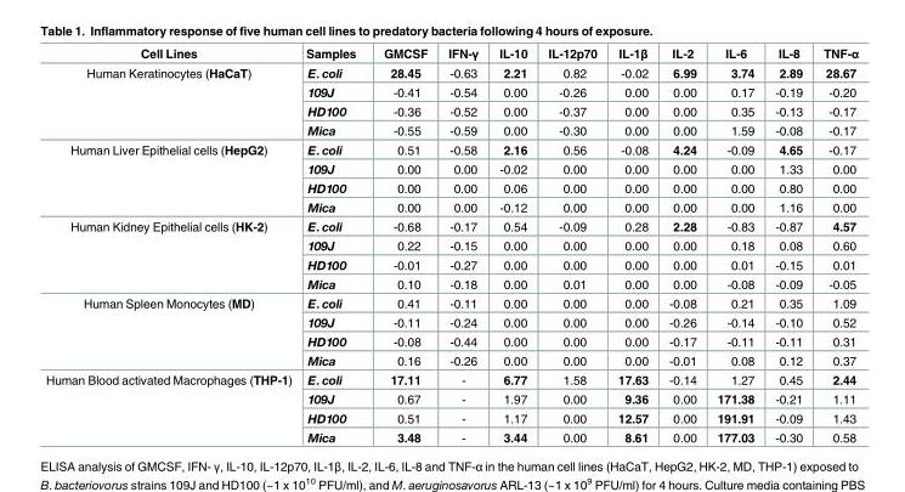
<table><thead><tr><td>Cell Lines</td><td>Samples</td><td>GMCSF</td><td>IFN-γ</td><td>IL-10</td><td>IL-12p70</td><td>IL-1β</td><td>IL-2</td><td>IL-6</td><td>IL-8</td><td>TNF-α</td></tr></thead><tbody><tr><td rowspan="4">Human Keratinocytes (HaCaT)</td><td>E. coli</td><td>28.45</td><td>-0.63</td><td>2.21</td><td>0.82</td><td>-0.02</td><td>6.99</td><td>3.74</td><td>2.89</td><td>28.67</td></tr><tr><td>109J</td><td>-0.41</td><td>-0.54</td><td>0.00</td><td>-0.26</td><td>0.00</td><td>0.00</td><td>0.17</td><td>-0.19</td><td>-0.20</td></tr><tr><td>HD100</td><td>-0.36</td><td>-0.52</td><td>0.00</td><td>-0.37</td><td>0.00</td><td>0.00</td><td>0.35</td><td>-0.13</td><td>-0.17</td></tr><tr><td>Mica</td><td>-0.55</td><td>-0.59</td><td>0.00</td><td>-0.30</td><td>0.00</td><td>0.00</td><td>1.59</td><td>-0.08</td><td>-0.17</td></tr><tr><td rowspan="4">Human Liver Epithelial cells (HepG2)</td><td>E. coli</td><td>0.51</td><td>-0.58</td><td>2.16</td><td>0.56</td><td>-0.08</td><td>4.24</td><td>-0.09</td><td>4.65</td><td>-0.17</td></tr><tr><td>109J</td><td>0.00</td><td>0.00</td><td>-0.02</td><td>0.00</td><td>0.00</td><td>0.00</td><td>0.00</td><td>1.33</td><td>0.00</td></tr><tr><td>HD100</td><td>0.00</td><td>0.00</td><td>0.06</td><td>0.00</td><td>0.00</td><td>0.00</td><td>0.00</td><td>0.80</td><td>0.00</td></tr><tr><td>Mica</td><td>0.00</td><td>0.00</td><td>-0.12</td><td>0.00</td><td>0.00</td><td>0.00</td><td>0.00</td><td>1.16</td><td>0.00</td></tr><tr><td rowspan="4">Human Kidney Epithelial cells (HK-2)</td><td>E. coli</td><td>-0.68</td><td>-0.17</td><td>0.54</td><td>-0.09</td><td>0.28</td><td>2.28</td><td>-0.83</td><td>-0.87</td><td>4.57</td></tr><tr><td>109J</td><td>0.22</td><td>-0.15</td><td>0.00</td><td>0.00</td><td>0.00</td><td>0.00</td><td>0.18</td><td>0.08</td><td>0.60</td></tr><tr><td>HD100</td><td>-0.01</td><td>-0.27</td><td>0.00</td><td>0.00</td><td>0.00</td><td>0.00</td><td>0.01</td><td>-0.15</td><td>0.01</td></tr><tr><td>Mica</td><td>0.10</td><td>-0.18</td><td>0.00</td><td>0.01</td><td>0.00</td><td>0.00</td><td>-0.08</td><td>-0.09</td><td>-0.05</td></tr><tr><td rowspan="4">Human Spleen Monocytes (MD)</td><td>E. coli</td><td>0.41</td><td>-0.11</td><td>0.00</td><td>0.00</td><td>0.00</td><td>-0.08</td><td>0.21</td><td>0.35</td><td>1.09</td></tr><tr><td>109J</td><td>-0.11</td><td>-0.24</td><td>0.00</td><td>0.00</td><td>0.00</td><td>-0.26</td><td>-0.14</td><td>-0.10</td><td>0.52</td></tr><tr><td>HD100</td><td>-0.08</td><td>-0.44</td><td>0.00</td><td>0.00</td><td>0.00</td><td>-0.17</td><td>-0.11</td><td>-0.11</td><td>0.31</td></tr><tr><td>Mica</td><td>0.16</td><td>-0.26</td><td>0.00</td><td>0.00</td><td>0.00</td><td>-0.01</td><td>0.08</td><td>0.12</td><td>0.37</td></tr><tr><td rowspan="4">Human Blood activated Macrophages (THP-1)</td><td>E. coli</td><td>17.11</td><td>-</td><td>6.77</td><td>1.58</td><td>17.63</td><td>-0.14</td><td>1.27</td><td>0.45</td><td>2.44</td></tr><tr><td>109J</td><td>0.67</td><td>-</td><td>1.97</td><td>0.00</td><td>9.36</td><td>0.00</td><td>171.38</td><td>-0.21</td><td>1.11</td></tr><tr><td>HD100</td><td>0.51</td><td>-</td><td>1.17</td><td>0.00</td><td>12.57</td><td>0.00</td><td>191.91</td><td>-0.09</td><td>1.43</td></tr><tr><td>Mica</td><td>3.48</td><td>-</td><td>3.44</td><td>0.00</td><td>8.61</td><td>0.00</td><td>177.03</td><td>-0.30</td><td>0.58</td></tr></tbody></table>